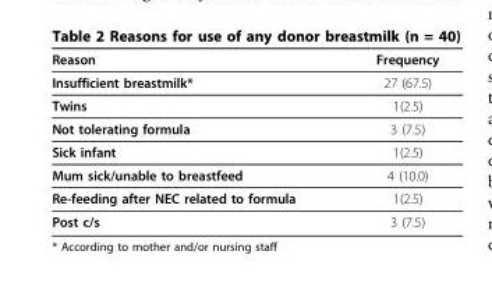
<table><thead><tr><td>Reason</td><td>Frequency</td></tr></thead><tbody><tr><td>Insufficient breastmilk*</td><td>27 (67.5)</td></tr><tr><td>Twins</td><td>1(2.5)</td></tr><tr><td>Not tolerating formula</td><td>3 (7.5)</td></tr><tr><td>Sick infant</td><td>1(2.5)</td></tr><tr><td>Mum sick/unable to breastfeed</td><td>4 (10.0)</td></tr><tr><td>Re-feeding after NEC related to formula</td><td>1(2.5)</td></tr><tr><td>Post c/s</td><td>3 (7.5)</td></tr></tbody></table>